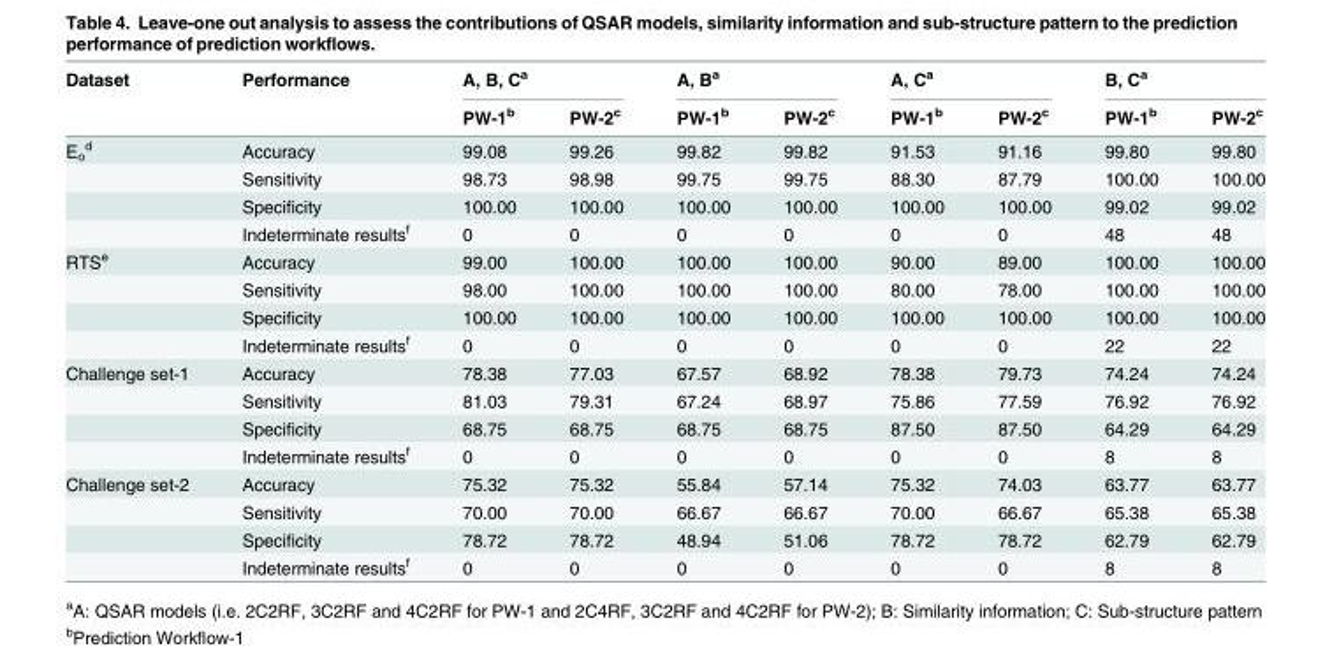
<table><thead><tr><td rowspan="2">Dataset</td><td rowspan="2">Performance</td><td colspan="2">A, B, C<sup>a</sup></td><td colspan="2">A, B<sup>a</sup></td><td colspan="2">A, C<sup>a</sup></td><td colspan="2">B, C<sup>a</sup></td></tr><tr><td>PW-1<sup>b</sup></td><td>PW-2<sup>c</sup></td><td>PW-1<sup>b</sup></td><td>PW-2<sup>c</sup></td><td>PW-1<sup>b</sup></td><td>PW-2<sup>c</sup></td><td>PW-1<sup>b</sup></td><td>PW-2<sup>c</sup></td></tr></thead><tbody><tr><td rowspan="4">E<sub>o</sub> <sup>d</sup></td><td>Accuracy</td><td>99.08</td><td>99.26</td><td>99.82</td><td>99.82</td><td>91.53</td><td>91.16</td><td>99.80</td><td>99.80</td></tr><tr><td>Sensitivity</td><td>98.73</td><td>98.98</td><td>99.75</td><td>99.75</td><td>88.30</td><td>87.79</td><td>100.00</td><td>100.00</td></tr><tr><td>Specificity</td><td>100.00</td><td>100.00</td><td>100.00</td><td>100.00</td><td>100.00</td><td>100.00</td><td>99.02</td><td>99.02</td></tr><tr><td>Indeterminate results<sup>f</sup></td><td>0</td><td>0</td><td>0</td><td>0</td><td>0</td><td>0</td><td>48</td><td>48</td></tr><tr><td rowspan="4">RTS<sup>e</sup></td><td>Accuracy</td><td>99.00</td><td>100.00</td><td>100.00</td><td>100.00</td><td>90.00</td><td>89.00</td><td>100.00</td><td>100.00</td></tr><tr><td>Sensitivity</td><td>98.00</td><td>100.00</td><td>100.00</td><td>100.00</td><td>80.00</td><td>78.00</td><td>100.00</td><td>100.00</td></tr><tr><td>Specificity</td><td>100.00</td><td>100.00</td><td>100.00</td><td>100.00</td><td>100.00</td><td>100.00</td><td>100.00</td><td>100.00</td></tr><tr><td>Indeterminate results<sup>f</sup></td><td>0</td><td>0</td><td>0</td><td>0</td><td>0</td><td>0</td><td>22</td><td>22</td></tr><tr><td rowspan="4">Challenge set-1</td><td>Accuracy</td><td>78.38</td><td>77.03</td><td>67.57</td><td>68.92</td><td>78.38</td><td>79.73</td><td>74.24</td><td>74.24</td></tr><tr><td>Sensitivity</td><td>81.03</td><td>79.31</td><td>67.24</td><td>68.97</td><td>75.86</td><td>77.59</td><td>76.92</td><td>76.92</td></tr><tr><td>Specificity</td><td>68.75</td><td>68.75</td><td>68.75</td><td>68.75</td><td>87.50</td><td>87.50</td><td>64.29</td><td>64.29</td></tr><tr><td>Indeterminate results<sup>f</sup></td><td>0</td><td>0</td><td>0</td><td>0</td><td>0</td><td>0</td><td>8</td><td>8</td></tr><tr><td rowspan="4">Challenge set-2</td><td>Accuracy</td><td>75.32</td><td>75.32</td><td>55.84</td><td>57.14</td><td>75.32</td><td>74.03</td><td>63.77</td><td>63.77</td></tr><tr><td>Sensitivity</td><td>70.00</td><td>70.00</td><td>66.67</td><td>66.67</td><td>70.00</td><td>66.67</td><td>65.38</td><td>65.38</td></tr><tr><td>Specificity</td><td>78.72</td><td>78.72</td><td>48.94</td><td>51.06</td><td>78.72</td><td>78.72</td><td>62.79</td><td>62.79</td></tr><tr><td>Indeterminate results<sup>f</sup></td><td>0</td><td>0</td><td>0</td><td>0</td><td>0</td><td>0</td><td>8</td><td>8</td></tr></tbody></table>